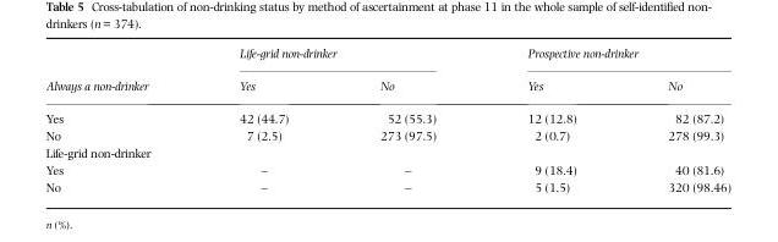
<table><thead><tr><td rowspan="2">Always a non-drinker</td><td colspan="2">Life-grid non-drinker</td><td colspan="2">Prospective non-drinker</td></tr><tr><td>Yes</td><td>No</td><td>Yes</td><td>No</td></tr></thead><tbody><tr><td>Yes</td><td>42 (44.7)</td><td>52 (55.3)</td><td>12 (12.8)</td><td>82 (87.2)</td></tr><tr><td>No</td><td>7 (2.5)</td><td>273 (97.5)</td><td>2 (0.7)</td><td>278 (99.3)</td></tr><tr><td colspan="5">Life-grid non-drinker</td></tr><tr><td>Yes</td><td>–</td><td>–</td><td>9 (18.4)</td><td>40 (81.6)</td></tr><tr><td>No</td><td>–</td><td>–</td><td>5 (1.5)</td><td>320 (98.46)</td></tr></tbody></table>